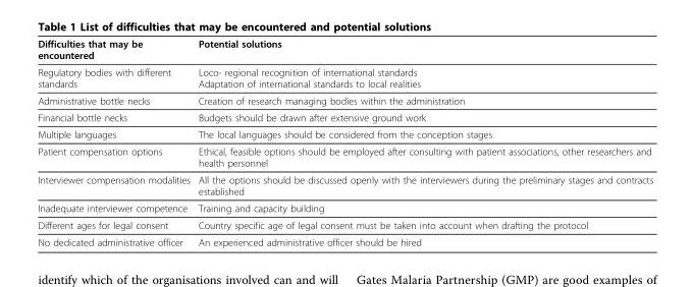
<table><thead><tr><td>Difficulties that may be encountered</td><td>Potential solutions</td></tr></thead><tbody><tr><td>Regulatory bodies with different standards</td><td>Loco- regional recognition of international standards Adaptation of international standards to local realities</td></tr><tr><td>Administrative bottle necks</td><td>Creation of research managing bodies within the administration</td></tr><tr><td>Financial bottle necks</td><td>Budgets should be drawn after extensive ground work</td></tr><tr><td>Multiple languages</td><td>The local languages should be considered from the conception stages</td></tr><tr><td>Patient compensation options</td><td>Ethical, feasible options should be employed after consulting with patient associations, other researchers and health personnel</td></tr><tr><td>Interviewer compensation modalities</td><td>All the options should be discussed openly with the interviewers during the preliminary stages and contracts established</td></tr><tr><td>Inadequate interviewer competence</td><td>Training and capacity building</td></tr><tr><td>Different ages for legal consent</td><td>Country specific age of legal consent must be taken into account when drafting the protocol</td></tr><tr><td>No dedicated administrative officer</td><td>An experienced administrative officer should be hired</td></tr></tbody></table>